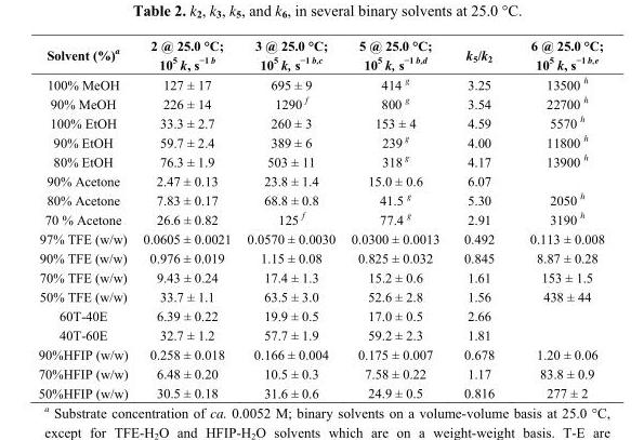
<table><thead><tr><td>Solvent (%)<sup>a</sup></td><td>2 @ 25.0 °C; 10<sup>5</sup> k, s<sup>−1 b</sup></td><td>3 @ 25.0 °C; 10<sup>5</sup> k, s<sup>−1 b</sup>,<sup>c</sup></td><td>5 @ 25.0 °C; 10<sup>5</sup> k, s<sup>−1 b</sup>,<sup>d</sup></td><td>k<sub>5</sub>/k<sub>2</sub></td><td>6 @ 25.0 °C; 10<sup>5</sup> k, s<sup>−1 b</sup>,<sup>e</sup></td></tr></thead><tbody><tr><td>100% MeOH</td><td>127 ± 17</td><td>695 ± 9</td><td>414 g</td><td>3.25</td><td>13500 h</td></tr><tr><td>90% MeOH</td><td>226 ± 14</td><td>1290 f</td><td>800 g</td><td>3.54</td><td>22700 h</td></tr><tr><td>100% EtOH</td><td>33.3 ± 2.7</td><td>260 ± 3</td><td>153 ± 4</td><td>4.59</td><td>5570 h</td></tr><tr><td>90% EtOH</td><td>59.7 ± 2.4</td><td>389 ± 6</td><td>239 g</td><td>4.00</td><td>11800 h</td></tr><tr><td>80% EtOH</td><td>76.3 ± 1.9</td><td>503 ± 11</td><td>318 g</td><td>4.17</td><td>13900 h</td></tr><tr><td>90% Acetone</td><td>2.47 ± 0.13</td><td>23.8 ± 1.4</td><td>15.0 ± 0.6</td><td>6.07</td><td></td></tr><tr><td>80% Acetone</td><td>7.83 ± 0.17</td><td>68.8 ± 0.8</td><td>41.5 g</td><td>5.30</td><td>2050 h</td></tr><tr><td>70 % Acetone</td><td>26.6 ± 0.82</td><td>125 f</td><td>77.4 g</td><td>2.91</td><td>3190 h</td></tr><tr><td>97% TFE (w/w)</td><td>0.0605 ± 0.0021</td><td>0.0570 ± 0.0030</td><td>0.0300 ± 0.0013</td><td>0.492</td><td>0.113 ± 0.008</td></tr><tr><td>90% TFE (w/w)</td><td>0.976 ± 0.019</td><td>1.15 ± 0.08</td><td>0.825 ± 0.032</td><td>0.845</td><td>8.87 ± 0.28</td></tr><tr><td>70% TFE (w/w)</td><td>9.43 ± 0.24</td><td>17.4 ± 1.3</td><td>15.2 ± 0.6</td><td>1.61</td><td>153 ± 1.5</td></tr><tr><td>50% TFE (w/w)</td><td>33.7 ± 1.1</td><td>63.5 ± 3.0</td><td>52.6 ± 2.8</td><td>1.56</td><td>438 ± 44</td></tr><tr><td>60T-40E</td><td>6.39 ± 0.22</td><td>19.9 ± 0.5</td><td>17.0 ± 0.5</td><td>2.66</td><td></td></tr><tr><td>40T-60E</td><td>32.7 ± 1.2</td><td>57.7 ± 1.9</td><td>59.2 ± 2.3</td><td>1.81</td><td></td></tr><tr><td>90%HFIP (w/w)</td><td>0.258 ± 0.018</td><td>0.166 ± 0.004</td><td>0.175 ± 0.007</td><td>0.678</td><td>1.20 ± 0.06</td></tr><tr><td>70%HFIP (w/w)</td><td>6.48 ± 0.20</td><td>10.5 ± 0.3</td><td>7.58 ± 0.22</td><td>1.17</td><td>83.8 ± 0.9</td></tr><tr><td>50%HFIP (w/w)</td><td>30.5 ± 0.18</td><td>31.6 ± 0.6</td><td>24.9 ± 0.5</td><td>0.816</td><td>277 ± 2</td></tr></tbody></table>